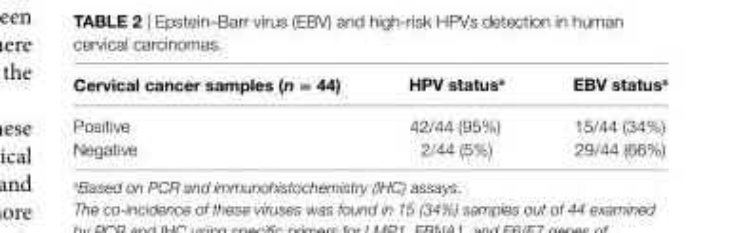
<table><thead><tr><td>cervical cancer samples (n = 44)</td><td>hPV status<sup>a</sup></td><td>eBV status<sup>a</sup></td></tr></thead><tbody><tr><td>Positive</td><td>42/44 (95%)</td><td>15/44 (34%)</td></tr><tr><td>Negative</td><td>2/44 (5%)</td><td>29/44 (66%)</td></tr></tbody></table>